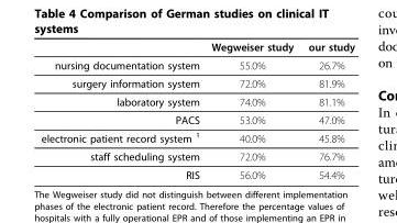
<table><thead><tr><td></td><td>Wegweiser study</td><td>our study</td></tr></thead><tbody><tr><td>nursing documentation system</td><td>55.0%</td><td>26.7%</td></tr><tr><td>surgery information system</td><td>72.0%</td><td>81.9%</td></tr><tr><td>laboratory system</td><td>74.0%</td><td>81.1%</td></tr><tr><td>PACS</td><td>53.0%</td><td>47.0%</td></tr><tr><td>electronic patient record system <sup>1</sup></td><td>40.0%</td><td>45.8%</td></tr><tr><td>staff scheduling system</td><td>72.0%</td><td>76.7%</td></tr><tr><td>RIS</td><td>56.0%</td><td>54.4%</td></tr></tbody></table>